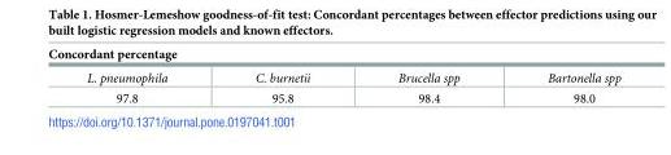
<table><thead><tr><td colspan="4">Concordant percentage</td></tr><tr><td>L. pneumophila</td><td>C. burnetii</td><td>Brucella spp</td><td>Bartonella spp</td></tr></thead><tbody><tr><td>97.8</td><td>95.8</td><td>98.4</td><td>98.0</td></tr></tbody></table>